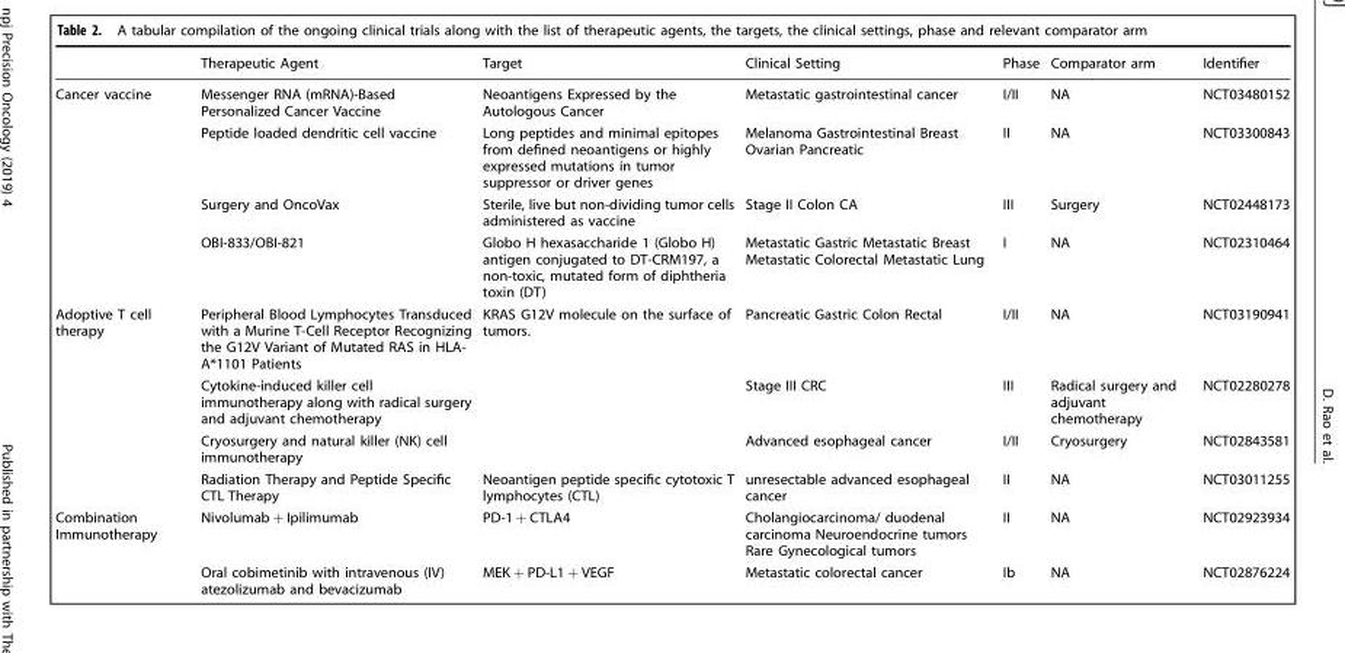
<table><thead><tr><td></td><td>Therapeutic Agent</td><td>Target</td><td>Clinical Setting</td><td>Phase</td><td>Comparator arm</td><td>Identifier</td></tr></thead><tbody><tr><td rowspan="4">Cancer vaccine</td><td>Messenger RNA (mRNA)-Based Personalized Cancer Vaccine</td><td>Neoantigens Expressed by the Autologous Cancer</td><td>Metastatic gastrointestinal cancer</td><td>I/II</td><td>NA</td><td>NCT03480152</td></tr><tr><td>Peptide loaded dendritic cell vaccine</td><td>Long peptides and minimal epitopes from defined neoantigens or highly expressed mutations in tumor suppressor or driver genes</td><td>Melanoma Gastrointestinal Breast Ovarian Pancreatic</td><td>II</td><td>NA</td><td>NCT03300843</td></tr><tr><td>Surgery and OncoVax</td><td>Sterile, live but non-dividing tumor cells administered as vaccine</td><td>Stage II Colon CA</td><td>III</td><td>Surgery</td><td>NCT02448173</td></tr><tr><td>OBI-833/OBI-821</td><td>Globo H hexasaccharide 1 (Globo H) antigen conjugated to DT-CRM197, a non-toxic, mutated form of diphtheria toxin (DT)</td><td>Metastatic Gastric Metastatic Breast Metastatic Colorectal Metastatic Lung</td><td>I</td><td>NA</td><td>NCT02310464</td></tr><tr><td rowspan="4">Adoptive T cell therapy</td><td>Peripheral Blood Lymphocytes Transduced with a Murine T-Cell Receptor Recognizing the G12V Variant of Mutated RAS in HLA- A*1101 Patients</td><td>KRAS G12V molecule on the surface of tumors.</td><td>Pancreatic Gastric Colon Rectal</td><td>I/II</td><td>NA</td><td>NCT03190941</td></tr><tr><td>Cytokine-induced killer cell immunotherapy along with radical surgery and adjuvant chemotherapy</td><td></td><td>Stage III CRC</td><td>III</td><td>Radical surgery and adjuvant chemotherapy</td><td>NCT02280278</td></tr><tr><td>Cryosurgery and natural killer (NK) cell immunotherapy</td><td></td><td>Advanced esophageal cancer</td><td>I/II</td><td>Cryosurgery</td><td>NCT02843581</td></tr><tr><td>Radiation Therapy and Peptide Specific CTL Therapy</td><td>Neoantigen peptide specific cytotoxic T lymphocytes (CTL)</td><td>unresectable advanced esophageal cancer</td><td>II</td><td>NA</td><td>NCT03011255</td></tr><tr><td rowspan="2">Combination Immunotherapy</td><td>Nivolumab + Ipilimumab</td><td>PD-1 + CTLA4</td><td>Cholangiocarcinoma/ duodenal carcinoma Neuroendocrine tumors Rare Gynecological tumors</td><td>II</td><td>NA</td><td>NCT02923934</td></tr><tr><td>Oral cobimetinib with intravenous (IV) atezolizumab and bevacizumab</td><td>MEK + PD-L1 + VEGF</td><td>Metastatic colorectal cancer</td><td>Ib</td><td>NA</td><td>NCT02876224</td></tr></tbody></table>